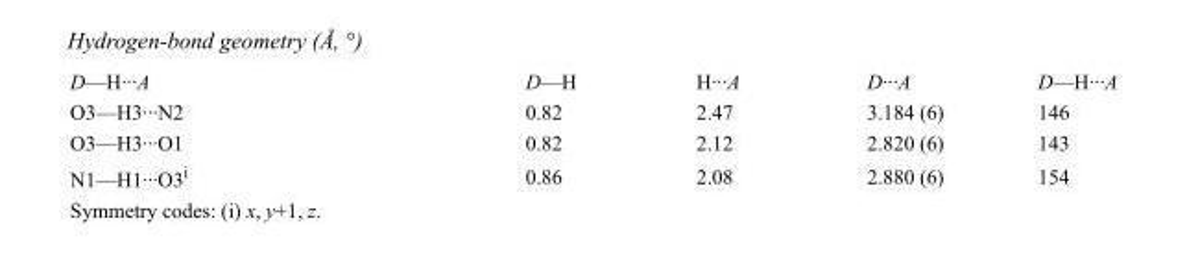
<table><tbody><tr><td>D—H···A</td><td>D—H</td><td>H···A</td><td>D···A</td><td>D—H···A</td></tr><tr><td>O3—H3···N2</td><td>0.82</td><td>2.47</td><td>3.184 (6)</td><td>146</td></tr><tr><td>O3—H3···O1</td><td>0.82</td><td>2.12</td><td>2.820 (6)</td><td>143</td></tr><tr><td>N1—H1···O3<sup>i</sup></td><td>0.86</td><td>2.08</td><td>2.880 (6)</td><td>154</td></tr></tbody></table>